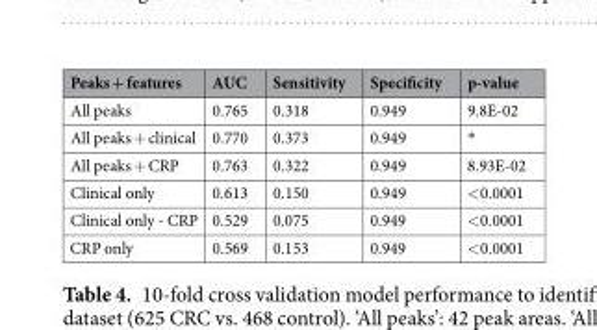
<table><thead><tr><td>Peaks + features</td><td>AUC</td><td>Sensitivity</td><td>Specificity</td><td>p-value</td></tr></thead><tbody><tr><td>All peaks</td><td>0.765</td><td>0.318</td><td>0.949</td><td>9.8E-02</td></tr><tr><td>All peaks + clinical</td><td>0.770</td><td>0.373</td><td>0.949</td><td>*</td></tr><tr><td>All peaks + CRP</td><td>0.763</td><td>0.322</td><td>0.949</td><td>8.93E-02</td></tr><tr><td>Clinical only</td><td>0.613</td><td>0.150</td><td>0.949</td><td>&lt;0.0001</td></tr><tr><td>Clinical only - CRP</td><td>0.529</td><td>0.075</td><td>0.949</td><td>&lt;0.0001</td></tr><tr><td>CRP only</td><td>0.569</td><td>0.153</td><td>0.949</td><td>&lt;0.0001</td></tr></tbody></table>